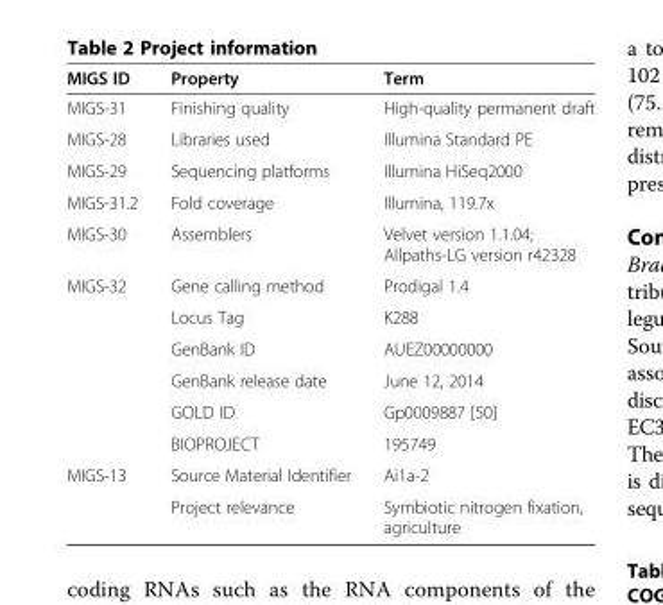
<table><thead><tr><td>MIGS ID</td><td>Property</td><td>Term</td></tr></thead><tbody><tr><td>MIGS-31</td><td>Finishing quality</td><td>High-quality permanent draft</td></tr><tr><td>MIGS-28</td><td>Libraries used</td><td>Illumina Standard PE</td></tr><tr><td>MIGS-29</td><td>Sequencing platforms</td><td>Illumina HiSeq2000</td></tr><tr><td>MIGS-31.2</td><td>Fold coverage</td><td>Illumina, 119.7x</td></tr><tr><td>MIGS-30</td><td>Assemblers</td><td>Velvet version 1.1.04; Allpaths-LG version r42328</td></tr><tr><td rowspan="6">MIGS-32</td><td>Gene calling method</td><td>Prodigal 1.4</td></tr><tr><td>Locus Tag</td><td>K288</td></tr><tr><td>GenBank ID</td><td>AUEZ00000000</td></tr><tr><td>GenBank release date</td><td>June 12, 2014</td></tr><tr><td>GOLD ID</td><td>Gp0009887 [50]</td></tr><tr><td>BIOPROJECT</td><td>195749</td></tr><tr><td rowspan="2">MIGS-13</td><td>Source Material Identifier</td><td>Ai1a-2</td></tr><tr><td>Project relevance</td><td>Symbiotic nitrogen fixation, agriculture</td></tr></tbody></table>